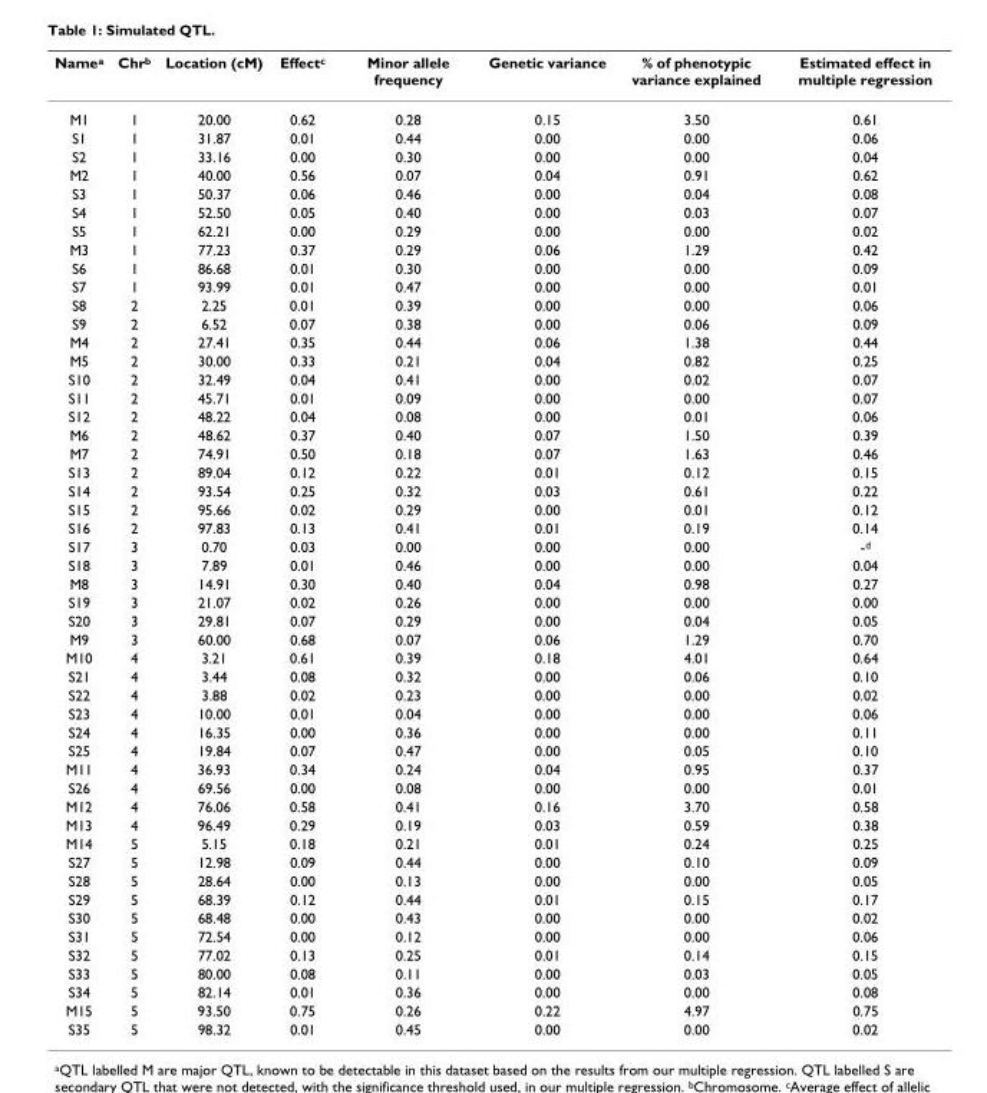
<table><thead><tr><td>Name<sup>a</sup></td><td>Chr<sup>b</sup></td><td>Location (cM)</td><td>Effect<sup>c</sup></td><td>Minor allele frequency</td><td>Genetic variance</td><td>% of phenotypic variance explained</td><td>Estimated effect in multiple regression</td></tr></thead><tbody><tr><td>M1</td><td>1</td><td>20.00</td><td>0.62</td><td>0.28</td><td>0.15</td><td>3.50</td><td>0.61</td></tr><tr><td>S1</td><td>1</td><td>31.87</td><td>0.01</td><td>0.44</td><td>0.00</td><td>0.00</td><td>0.06</td></tr><tr><td>S2</td><td>1</td><td>33.16</td><td>0.00</td><td>0.30</td><td>0.00</td><td>0.00</td><td>0.04</td></tr><tr><td>M2</td><td>1</td><td>40.00</td><td>0.56</td><td>0.07</td><td>0.04</td><td>0.91</td><td>0.62</td></tr><tr><td>S3</td><td>1</td><td>50.37</td><td>0.06</td><td>0.46</td><td>0.00</td><td>0.04</td><td>0.08</td></tr><tr><td>S4</td><td>1</td><td>52.50</td><td>0.05</td><td>0.40</td><td>0.00</td><td>0.03</td><td>0.07</td></tr><tr><td>S5</td><td>1</td><td>62.21</td><td>0.00</td><td>0.29</td><td>0.00</td><td>0.00</td><td>0.02</td></tr><tr><td>M3</td><td>1</td><td>77.23</td><td>0.37</td><td>0.29</td><td>0.06</td><td>1.29</td><td>0.42</td></tr><tr><td>S6</td><td>1</td><td>86.68</td><td>0.01</td><td>0.30</td><td>0.00</td><td>0.00</td><td>0.09</td></tr><tr><td>S7</td><td>1</td><td>93.99</td><td>0.01</td><td>0.47</td><td>0.00</td><td>0.00</td><td>0.01</td></tr><tr><td>S8</td><td>2</td><td>2.25</td><td>0.01</td><td>0.39</td><td>0.00</td><td>0.00</td><td>0.06</td></tr><tr><td>S9</td><td>2</td><td>6.52</td><td>0.07</td><td>0.38</td><td>0.00</td><td>0.06</td><td>0.09</td></tr><tr><td>M4</td><td>2</td><td>27.41</td><td>0.35</td><td>0.44</td><td>0.06</td><td>1.38</td><td>0.44</td></tr><tr><td>M5</td><td>2</td><td>30.00</td><td>0.33</td><td>0.21</td><td>0.04</td><td>0.82</td><td>0.25</td></tr><tr><td>S10</td><td>2</td><td>32.49</td><td>0.04</td><td>0.41</td><td>0.00</td><td>0.02</td><td>0.07</td></tr><tr><td>S11</td><td>2</td><td>45.71</td><td>0.01</td><td>0.09</td><td>0.00</td><td>0.00</td><td>0.07</td></tr><tr><td>S12</td><td>2</td><td>48.22</td><td>0.04</td><td>0.08</td><td>0.00</td><td>0.01</td><td>0.06</td></tr><tr><td>M6</td><td>2</td><td>48.62</td><td>0.37</td><td>0.40</td><td>0.07</td><td>1.50</td><td>0.39</td></tr><tr><td>M7</td><td>2</td><td>74.91</td><td>0.50</td><td>0.18</td><td>0.07</td><td>1.63</td><td>0.46</td></tr><tr><td>S13</td><td>2</td><td>89.04</td><td>0.12</td><td>0.22</td><td>0.01</td><td>0.12</td><td>0.15</td></tr><tr><td>S14</td><td>2</td><td>93.54</td><td>0.25</td><td>0.32</td><td>0.03</td><td>0.61</td><td>0.22</td></tr><tr><td>S15</td><td>2</td><td>95.66</td><td>0.02</td><td>0.29</td><td>0.00</td><td>0.01</td><td>0.12</td></tr><tr><td>S16</td><td>2</td><td>97.83</td><td>0.13</td><td>0.41</td><td>0.01</td><td>0.19</td><td>0.14</td></tr><tr><td>S17</td><td>3</td><td>0.70</td><td>0.03</td><td>0.00</td><td>0.00</td><td>0.00</td><td>-<sup>d</sup></td></tr><tr><td>S18</td><td>3</td><td>7.89</td><td>0.01</td><td>0.46</td><td>0.00</td><td>0.00</td><td>0.04</td></tr><tr><td>M8</td><td>3</td><td>14.91</td><td>0.30</td><td>0.40</td><td>0.04</td><td>0.98</td><td>0.27</td></tr><tr><td>S19</td><td>3</td><td>21.07</td><td>0.02</td><td>0.26</td><td>0.00</td><td>0.00</td><td>0.00</td></tr><tr><td>S20</td><td>3</td><td>29.81</td><td>0.07</td><td>0.29</td><td>0.00</td><td>0.04</td><td>0.05</td></tr><tr><td>M9</td><td>3</td><td>60.00</td><td>0.68</td><td>0.07</td><td>0.06</td><td>1.29</td><td>0.70</td></tr><tr><td>M10</td><td>4</td><td>3.21</td><td>0.61</td><td>0.39</td><td>0.18</td><td>4.01</td><td>0.64</td></tr><tr><td>S21</td><td>4</td><td>3.44</td><td>0.08</td><td>0.32</td><td>0.00</td><td>0.06</td><td>0.10</td></tr><tr><td>S22</td><td>4</td><td>3.88</td><td>0.02</td><td>0.23</td><td>0.00</td><td>0.00</td><td>0.02</td></tr><tr><td>S23</td><td>4</td><td>10.00</td><td>0.01</td><td>0.04</td><td>0.00</td><td>0.00</td><td>0.06</td></tr><tr><td>S24</td><td>4</td><td>16.35</td><td>0.00</td><td>0.36</td><td>0.00</td><td>0.00</td><td>0.11</td></tr><tr><td>S25</td><td>4</td><td>19.84</td><td>0.07</td><td>0.47</td><td>0.00</td><td>0.05</td><td>0.10</td></tr><tr><td>M11</td><td>4</td><td>36.93</td><td>0.34</td><td>0.24</td><td>0.04</td><td>0.95</td><td>0.37</td></tr><tr><td>S26</td><td>4</td><td>69.56</td><td>0.00</td><td>0.08</td><td>0.00</td><td>0.00</td><td>0.01</td></tr><tr><td>M12</td><td>4</td><td>76.06</td><td>0.58</td><td>0.41</td><td>0.16</td><td>3.70</td><td>0.58</td></tr><tr><td>M13</td><td>4</td><td>96.49</td><td>0.29</td><td>0.19</td><td>0.03</td><td>0.59</td><td>0.38</td></tr><tr><td>M14</td><td>5</td><td>5.15</td><td>0.18</td><td>0.21</td><td>0.01</td><td>0.24</td><td>0.25</td></tr><tr><td>S27</td><td>5</td><td>12.98</td><td>0.09</td><td>0.44</td><td>0.00</td><td>0.10</td><td>0.09</td></tr><tr><td>S28</td><td>5</td><td>28.64</td><td>0.00</td><td>0.13</td><td>0.00</td><td>0.00</td><td>0.05</td></tr><tr><td>S29</td><td>5</td><td>68.39</td><td>0.12</td><td>0.44</td><td>0.01</td><td>0.15</td><td>0.17</td></tr><tr><td>S30</td><td>5</td><td>68.48</td><td>0.00</td><td>0.43</td><td>0.00</td><td>0.00</td><td>0.02</td></tr><tr><td>S31</td><td>5</td><td>72.54</td><td>0.00</td><td>0.12</td><td>0.00</td><td>0.00</td><td>0.06</td></tr><tr><td>S32</td><td>5</td><td>77.02</td><td>0.13</td><td>0.25</td><td>0.01</td><td>0.14</td><td>0.15</td></tr><tr><td>S33</td><td>5</td><td>80.00</td><td>0.08</td><td>0.11</td><td>0.00</td><td>0.03</td><td>0.05</td></tr><tr><td>S34</td><td>5</td><td>82.14</td><td>0.01</td><td>0.36</td><td>0.00</td><td>0.00</td><td>0.08</td></tr><tr><td>M15</td><td>5</td><td>93.50</td><td>0.75</td><td>0.26</td><td>0.22</td><td>4.97</td><td>0.75</td></tr><tr><td>S35</td><td>5</td><td>98.32</td><td>0.01</td><td>0.45</td><td>0.00</td><td>0.00</td><td>0.02</td></tr></tbody></table>